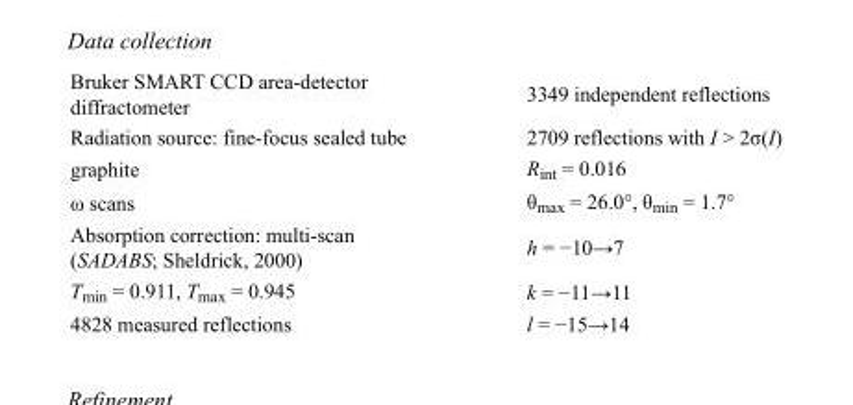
<table><tbody><tr><td>Bruker SMART CCD area-detector diffractometer</td><td>3349 independent reflections</td></tr><tr><td>Radiation source: fine-focus sealed tube</td><td>2709 reflections with I &gt; 2σ(I)</td></tr><tr><td>graphite</td><td>R<sub>int</sub> = 0.016</td></tr><tr><td>ω scans</td><td>θ<sub>max</sub> = 26.0°, θ<sub>min</sub> = 1.7°</td></tr><tr><td>Absorption correction: multi-scan (SADABS; Sheldrick, 2000)</td><td>h = −10→7</td></tr><tr><td>T<sub>min</sub> = 0.911, T<sub>max</sub> = 0.945</td><td>k = −11→11</td></tr><tr><td>4828 measured reflections</td><td>l = −15→14</td></tr></tbody></table>